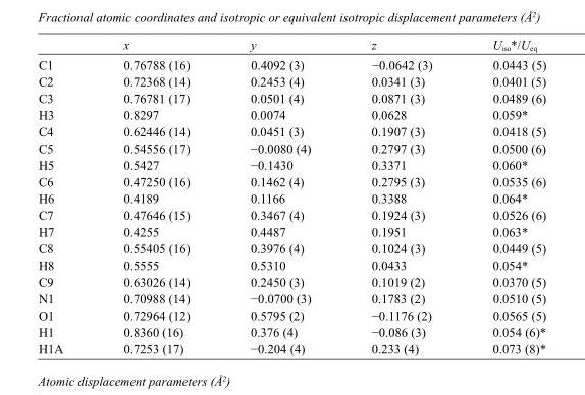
<table><thead><tr><td></td><td>x</td><td>y</td><td>z</td><td>U<sub>iso</sub>*/U<sub>eq</sub></td></tr></thead><tbody><tr><td>C1</td><td>0.76788 (16)</td><td>0.4092 (3)</td><td>−0.0642 (3)</td><td>0.0443 (5)</td></tr><tr><td>C2</td><td>0.72368 (14)</td><td>0.2453 (4)</td><td>0.0341 (3)</td><td>0.0401 (5)</td></tr><tr><td>C3</td><td>0.76781 (17)</td><td>0.0501 (4)</td><td>0.0871 (3)</td><td>0.0489 (6)</td></tr><tr><td>H3</td><td>0.8297</td><td>0.0074</td><td>0.0628</td><td>0.059*</td></tr><tr><td>C4</td><td>0.62446 (14)</td><td>0.0451 (3)</td><td>0.1907 (3)</td><td>0.0418 (5)</td></tr><tr><td>C5</td><td>0.54556 (17)</td><td>−0.0080 (4)</td><td>0.2797 (3)</td><td>0.0500 (6)</td></tr><tr><td>H5</td><td>0.5427</td><td>−0.1430</td><td>0.3371</td><td>0.060*</td></tr><tr><td>C6</td><td>0.47250 (16)</td><td>0.1462 (4)</td><td>0.2795 (3)</td><td>0.0535 (6)</td></tr><tr><td>H6</td><td>0.4189</td><td>0.1166</td><td>0.3388</td><td>0.064*</td></tr><tr><td>C7</td><td>0.47646 (15)</td><td>0.3467 (4)</td><td>0.1924 (3)</td><td>0.0526 (6)</td></tr><tr><td>H7</td><td>0.4255</td><td>0.4487</td><td>0.1951</td><td>0.063*</td></tr><tr><td>C8</td><td>0.55405 (16)</td><td>0.3976 (4)</td><td>0.1024 (3)</td><td>0.0449 (5)</td></tr><tr><td>H8</td><td>0.5555</td><td>0.5310</td><td>0.0433</td><td>0.054*</td></tr><tr><td>C9</td><td>0.63026 (14)</td><td>0.2450 (3)</td><td>0.1019 (2)</td><td>0.0370 (5)</td></tr><tr><td>N1</td><td>0.70988 (14)</td><td>−0.0700 (3)</td><td>0.1783 (2)</td><td>0.0510 (5)</td></tr><tr><td>O1</td><td>0.72964 (12)</td><td>0.5795 (2)</td><td>−0.1176 (2)</td><td>0.0565 (5)</td></tr><tr><td>H1</td><td>0.8360 (16)</td><td>0.376 (4)</td><td>−0.086 (3)</td><td>0.054 (6)*</td></tr><tr><td>H1A</td><td>0.7253 (17)</td><td>−0.204 (4)</td><td>0.233 (4)</td><td>0.073 (8)*</td></tr></tbody></table>